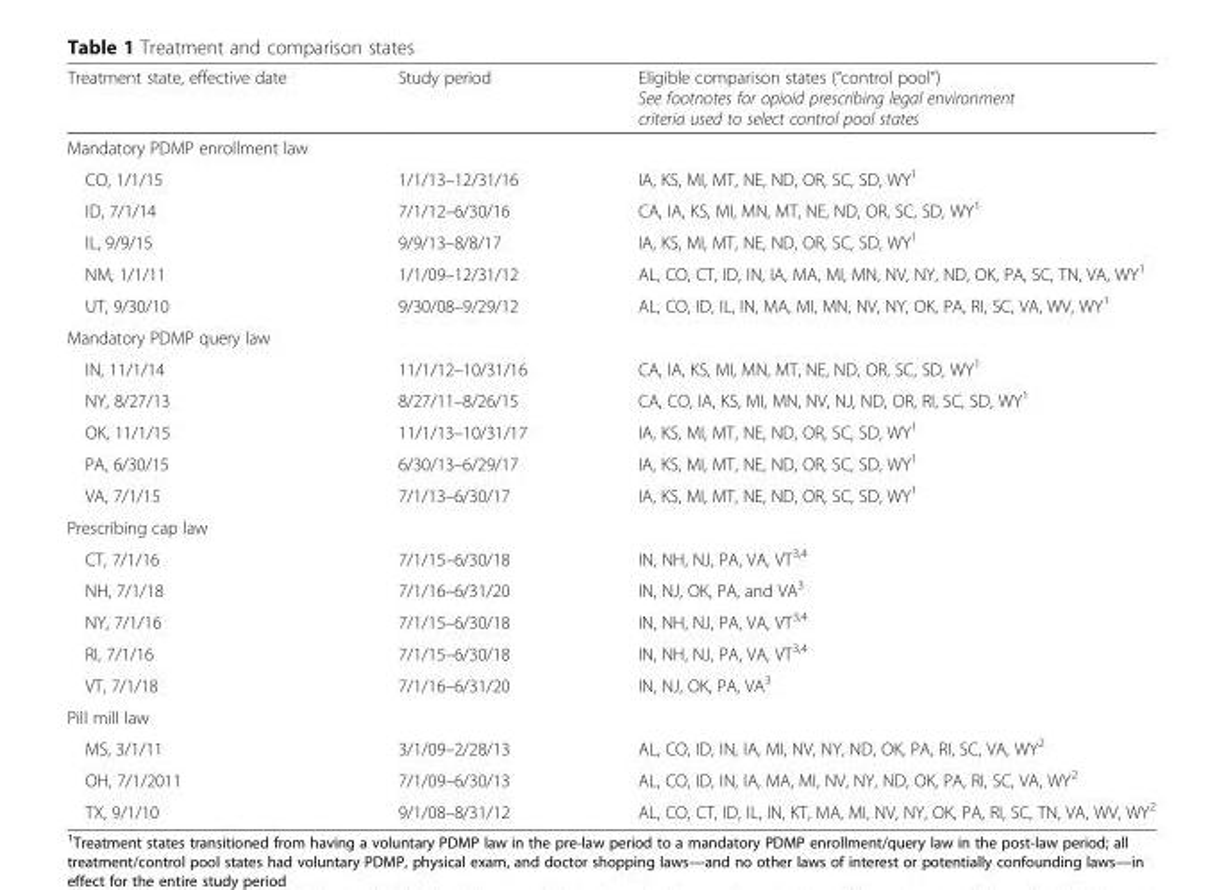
<table><thead><tr><td>Treatment state, effective date</td><td>Study period</td><td>Eligible comparison states (“control pool”) See footnotes for opioid prescribing legal environment criteria used to select control pool states</td></tr></thead><tbody><tr><td colspan="3">Mandatory PDMP enrollment law</td></tr><tr><td>CO, 1/1/15</td><td>1/1/13–12/31/16</td><td>IA, KS, MI, MT, NE, ND, OR, SC, SD, WY<sup>1</sup></td></tr><tr><td>ID, 7/1/14</td><td>7/1/12–6/30/16</td><td>CA, IA, KS, MI, MN, MT, NE, ND, OR, SC, SD, WY<sup>1</sup></td></tr><tr><td>IL, 9/9/15</td><td>9/9/13–8/8/17</td><td>IA, KS, MI, MT, NE, ND, OR, SC, SD, WY<sup>1</sup></td></tr><tr><td>NM, 1/1/11</td><td>1/1/09–12/31/12</td><td>AL, CO, CT, ID, IN, IA, MA, MI, MN, NV, NY, ND, OK, PA, SC, TN, VA, WY<sup>1</sup></td></tr><tr><td>UT, 9/30/10</td><td>9/30/08–9/29/12</td><td>AL, CO, ID, IL, IN, MA, MI, MN, NV, NY, OK, PA, RI, SC, VA, WV, WY<sup>1</sup></td></tr><tr><td colspan="3">Mandatory PDMP query law</td></tr><tr><td>IN, 11/1/14</td><td>11/1/12–10/31/16</td><td>CA, IA, KS, MI, MN, MT, NE, ND, OR, SC, SD, WY<sup>1</sup></td></tr><tr><td>NY, 8/27/13</td><td>8/27/11–8/26/15</td><td>CA, CO, IA, KS, MI, MN, NV, NJ, ND, OR, RI, SC, SD, WY<sup>1</sup></td></tr><tr><td>OK, 11/1/15</td><td>11/1/13–10/31/17</td><td>IA, KS, MI, MT, NE, ND, OR, SC, SD, WY<sup>1</sup></td></tr><tr><td>PA, 6/30/15</td><td>6/30/13–6/29/17</td><td>IA, KS, MI, MT, NE, ND, OR, SC, SD, WY<sup>1</sup></td></tr><tr><td>VA, 7/1/15</td><td>7/1/13–6/30/17</td><td>IA, KS, MI, MT, NE, ND, OR, SC, SD, WY<sup>1</sup></td></tr><tr><td colspan="3">Prescribing cap law</td></tr><tr><td>CT, 7/1/16</td><td>7/1/15–6/30/18</td><td>IN, NH, NJ, PA, VA, VT<sup>3,4</sup></td></tr><tr><td>NH, 7/1/18</td><td>7/1/16–6/31/20</td><td>IN, NJ, OK, PA, and VA<sup>3</sup></td></tr><tr><td>NY, 7/1/16</td><td>7/1/15–6/30/18</td><td>IN, NH, NJ, PA, VA, VT<sup>3,4</sup></td></tr><tr><td>RI, 7/1/16</td><td>7/1/15–6/30/18</td><td>IN, NH, NJ, PA, VA, VT<sup>3,4</sup></td></tr><tr><td>VT, 7/1/18</td><td>7/1/16–6/31/20</td><td>IN, NJ, OK, PA, VA<sup>3</sup></td></tr><tr><td colspan="3">Pill mill law</td></tr><tr><td>MS, 3/1/11</td><td>3/1/09–2/28/13</td><td>AL, CO, ID, IN, IA, MI, NV, NY, ND, OK, PA, RI, SC, VA, WY<sup>2</sup></td></tr><tr><td>OH, 7/1/2011</td><td>7/1/09–6/30/13</td><td>AL, CO, ID, IN, IA, MA, MI, NV, NY, ND, OK, PA, RI, SC, VA, WY<sup>2</sup></td></tr><tr><td>TX, 9/1/10</td><td>9/1/08–8/31/12</td><td>AL, CO, CT, ID, IL, IN, KT, MA, MI, NV, NY, OK, PA, RI, SC, TN, VA, WV, WY<sup>2</sup></td></tr></tbody></table>